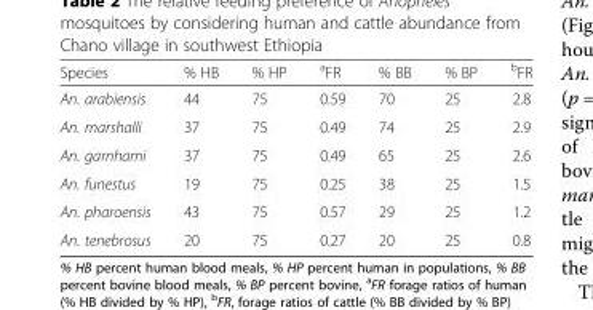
<table><thead><tr><td>Species</td><td>% HB</td><td>% HP</td><td><sup>a</sup>FR</td><td>% BB</td><td>% BP</td><td><sup>b</sup>FR</td></tr></thead><tbody><tr><td>An. arabiensis</td><td>44</td><td>75</td><td>0.59</td><td>70</td><td>25</td><td>2.8</td></tr><tr><td>An. marshalli</td><td>37</td><td>75</td><td>0.49</td><td>74</td><td>25</td><td>2.9</td></tr><tr><td>An. garnhami</td><td>37</td><td>75</td><td>0.49</td><td>65</td><td>25</td><td>2.6</td></tr><tr><td>An. funestus</td><td>19</td><td>75</td><td>0.25</td><td>38</td><td>25</td><td>1.5</td></tr><tr><td>An. pharoensis</td><td>43</td><td>75</td><td>0.57</td><td>29</td><td>25</td><td>1.2</td></tr><tr><td>An. tenebrosus</td><td>20</td><td>75</td><td>0.27</td><td>20</td><td>25</td><td>0.8</td></tr></tbody></table>